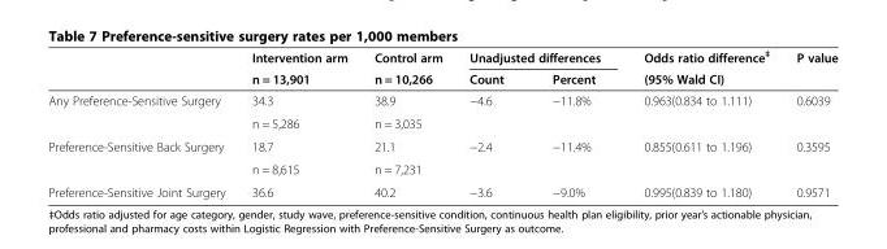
<table><thead><tr><td rowspan="2"></td><td rowspan="2">Intervention arm n = 13,901</td><td rowspan="2">Control arm n = 10,266</td><td colspan="2">Unadjusted differences</td><td rowspan="2">Odds ratio difference<sup>‡</sup> (95% Wald CI)</td><td rowspan="2">P value</td></tr><tr><td>Count</td><td>Percent</td></tr></thead><tbody><tr><td rowspan="2">Any Preference-Sensitive Surgery</td><td>34.3</td><td>38.9</td><td>−4.6</td><td>−11.8%</td><td>0.963(0.834 to 1.111)</td><td>0.6039</td></tr><tr><td>n = 5,286</td><td>n = 3,035</td><td></td><td></td><td></td><td></td></tr><tr><td rowspan="2">Preference-Sensitive Back Surgery</td><td>18.7</td><td>21.1</td><td>−2.4</td><td>−11.4%</td><td>0.855(0.611 to 1.196)</td><td>0.3595</td></tr><tr><td>n = 8,615</td><td>n = 7,231</td><td></td><td></td><td></td><td></td></tr><tr><td>Preference-Sensitive Joint Surgery</td><td>36.6</td><td>40.2</td><td>−3.6</td><td>−9.0%</td><td>0.995(0.839 to 1.180)</td><td>0.9571</td></tr></tbody></table>